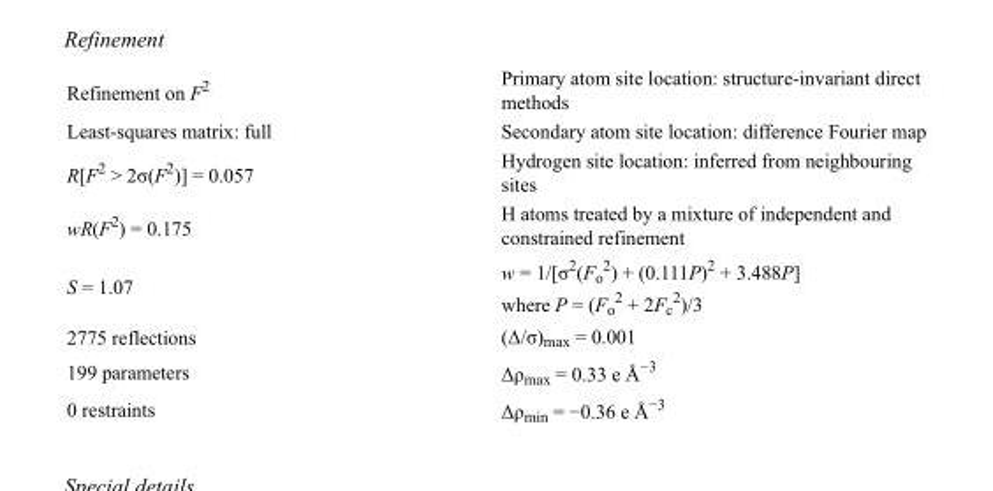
<table><tbody><tr><td>Refinement on F<sup>2</sup></td><td>Primary atom site location: structure-invariant direct methods</td></tr><tr><td>Least-squares matrix: full</td><td>Secondary atom site location: difference Fourier map</td></tr><tr><td>R[F<sup>2</sup> &gt; 2σ(F<sup>2</sup>)] = 0.057</td><td>Hydrogen site location: inferred from neighbouring sites</td></tr><tr><td>wR(F<sup>2</sup>) = 0.175</td><td>H atoms treated by a mixture of independent and constrained refinement</td></tr><tr><td>S = 1.07</td><td>w = 1/[σ<sup>2</sup>(F<sub>o</sub> <sup>2</sup>) + (0.111P)<sup>2</sup> + 3.488P] where P = (F<sub>o</sub> <sup>2</sup> + 2F<sub>c</sub> <sup>2</sup>)/3</td></tr><tr><td>2775 reflections</td><td>(Δ/σ)<sub>max</sub> = 0.001</td></tr><tr><td>199 parameters</td><td>Δρ<sub>max</sub> = 0.33 e Å<sup>−3</sup></td></tr><tr><td>0 restraints</td><td>Δρ<sub>min</sub> = −0.36 e Å<sup>−3</sup></td></tr></tbody></table>